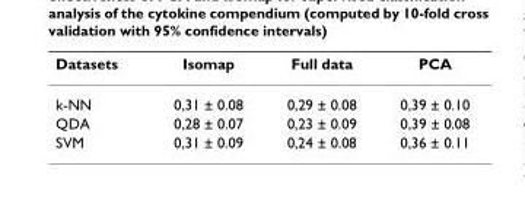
<table><thead><tr><td>Datasets</td><td>Isomap</td><td>Full data</td><td>PCA</td></tr></thead><tbody><tr><td>k-NN</td><td>0,31 ± 0.08</td><td>0,29 ± 0.08</td><td>0,39 ± 0.10</td></tr><tr><td>QDA</td><td>0,28 ± 0.07</td><td>0,23 ± 0.09</td><td>0,39 ± 0.08</td></tr><tr><td>SVM</td><td>0,31 ± 0.09</td><td>0,24 ± 0.08</td><td>0,36 ± 0.11</td></tr></tbody></table>